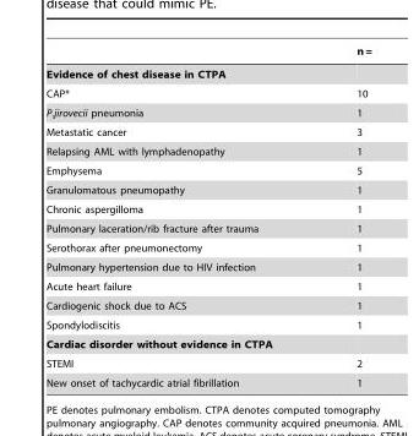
<table><thead><tr><td></td><td>n =</td></tr></thead><tbody><tr><td colspan="2">Evidence of chest disease in CTPA</td></tr><tr><td>CAP*</td><td>10</td></tr><tr><td>P.jirovecii pneumonia</td><td>1</td></tr><tr><td>Metastatic cancer</td><td>3</td></tr><tr><td>Relapsing AML with lymphadenopathy</td><td>1</td></tr><tr><td>Emphysema</td><td>5</td></tr><tr><td>Granulomatous pneumopathy</td><td>1</td></tr><tr><td>Chronic aspergilloma</td><td>1</td></tr><tr><td>Pulmonary laceration/rib fracture after trauma</td><td>1</td></tr><tr><td>Serothorax after pneumonectomy</td><td>1</td></tr><tr><td>Pulmonary hypertension due to HIV infection</td><td>1</td></tr><tr><td>Acute heart failure</td><td>1</td></tr><tr><td>Cardiogenic shock due to ACS</td><td>1</td></tr><tr><td>Spondylodiscitis</td><td>1</td></tr><tr><td colspan="2">Cardiac disorder without evidence in CTPA</td></tr><tr><td>STEMI</td><td>2</td></tr><tr><td>New onset of tachycardic atrial fibrillation</td><td>1</td></tr></tbody></table>